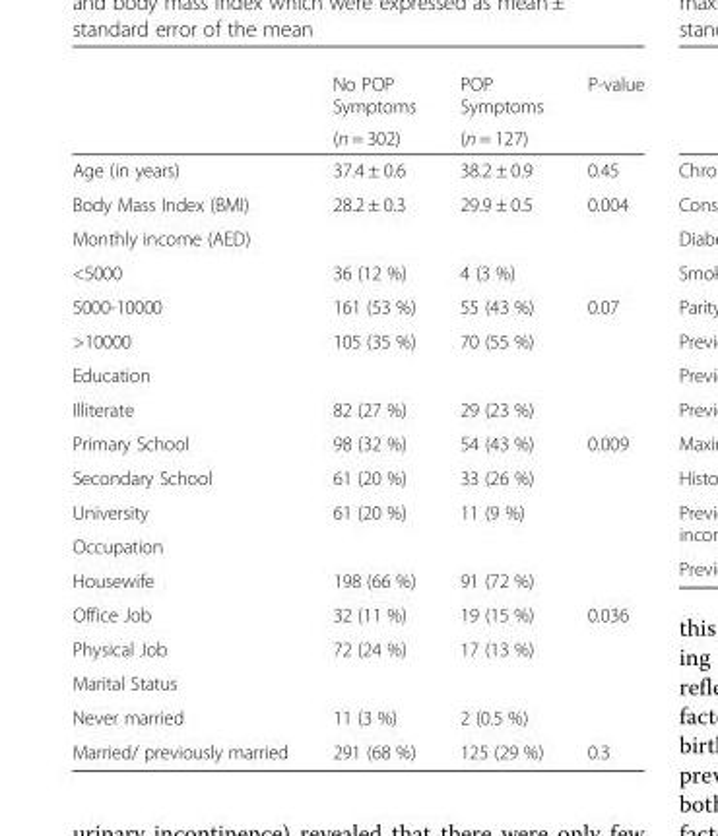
<table><thead><tr><td rowspan="2"></td><td rowspan="2">No POP Symptoms (n = 302)</td><td rowspan="2">POP Symptoms (n = 127)</td><td rowspan="2">P-value</td></tr><tr></tr></thead><tbody><tr><td>Age (in years)</td><td>37.4 ± 0.6</td><td>38.2 ± 0.9</td><td>0.45</td></tr><tr><td>Body Mass Index (BMI)</td><td>28.2 ± 0.3</td><td>29.9 ± 0.5</td><td>0.004</td></tr><tr><td colspan="4">Monthly income (AED)</td></tr><tr><td>&lt;5000</td><td>36 (12 %)</td><td>4 (3 %)</td><td></td></tr><tr><td>5000-10000</td><td>161 (53 %)</td><td>55 (43 %)</td><td>0.07</td></tr><tr><td>&gt;10000</td><td>105 (35 %)</td><td>70 (55 %)</td><td></td></tr><tr><td colspan="4">Education</td></tr><tr><td>Illiterate</td><td>82 (27 %)</td><td>29 (23 %)</td><td></td></tr><tr><td>Primary School</td><td>98 (32 %)</td><td>54 (43 %)</td><td>0.009</td></tr><tr><td>Secondary School</td><td>61 (20 %)</td><td>33 (26 %)</td><td></td></tr><tr><td>University</td><td>61 (20 %)</td><td>11 (9 %)</td><td></td></tr><tr><td colspan="4">Occupation</td></tr><tr><td>Housewife</td><td>198 (66 %)</td><td>91 (72 %)</td><td></td></tr><tr><td>Office Job</td><td>32 (11 %)</td><td>19 (15 %)</td><td>0.036</td></tr><tr><td>Physical Job</td><td>72 (24 %)</td><td>17 (13 %)</td><td></td></tr><tr><td colspan="4">Marital Status</td></tr><tr><td>Never married</td><td>11 (3 %)</td><td>2 (0.5 %)</td><td></td></tr><tr><td>Married/ previously married</td><td>291 (68 %)</td><td>125 (29 %)</td><td>0.3</td></tr></tbody></table>